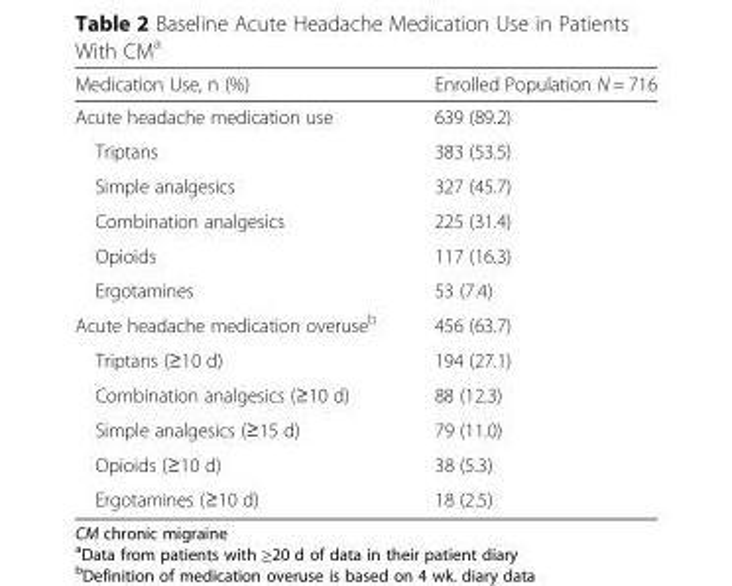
<table><thead><tr><td>Medication Use, n (%)</td><td>Enrolled Population N = 716</td></tr></thead><tbody><tr><td>Acute headache medication use</td><td>639 (89.2)</td></tr><tr><td>Triptans</td><td>383 (53.5)</td></tr><tr><td>Simple analgesics</td><td>327 (45.7)</td></tr><tr><td>Combination analgesics</td><td>225 (31.4)</td></tr><tr><td>Opioids</td><td>117 (16.3)</td></tr><tr><td>Ergotamines</td><td>53 (7.4)</td></tr><tr><td>Acute headache medication overuse<sup>b</sup></td><td>456 (63.7)</td></tr><tr><td>Triptans (≥10 d)</td><td>194 (27.1)</td></tr><tr><td>Combination analgesics (≥10 d)</td><td>88 (12.3)</td></tr><tr><td>Simple analgesics (≥15 d)</td><td>79 (11.0)</td></tr><tr><td>Opioids (≥10 d)</td><td>38 (5.3)</td></tr><tr><td>Ergotamines (≥10 d)</td><td>18 (2.5)</td></tr></tbody></table>